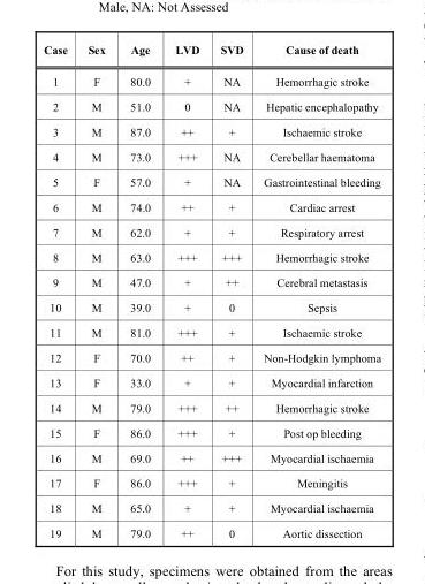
<table><thead><tr><td>Case</td><td>Sex</td><td>Age</td><td>LVD</td><td>SVD</td><td>Cause of death</td></tr></thead><tbody><tr><td>1</td><td>F</td><td>80.0</td><td>+</td><td>NA</td><td>Hemorrhagic stroke</td></tr><tr><td>2</td><td>M</td><td>51.0</td><td>0</td><td>NA</td><td>Hepatic encephalopathy</td></tr><tr><td>3</td><td>M</td><td>87.0</td><td>++</td><td>+</td><td>Ischaemic stroke</td></tr><tr><td>4</td><td>M</td><td>73.0</td><td>+++</td><td>NA</td><td>Cerebellar haematoma</td></tr><tr><td>5</td><td>F</td><td>57.0</td><td>+</td><td>NA</td><td>Gastrointestinal bleeding</td></tr><tr><td>6</td><td>M</td><td>74.0</td><td>++</td><td>+</td><td>Cardiac arrest</td></tr><tr><td>7</td><td>M</td><td>62.0</td><td>+</td><td>+</td><td>Respiratory arrest</td></tr><tr><td>8</td><td>M</td><td>63.0</td><td>+++</td><td>+++</td><td>Hemorrhagic stroke</td></tr><tr><td>9</td><td>M</td><td>47.0</td><td>+</td><td>++</td><td>Cerebral metastasis</td></tr><tr><td>10</td><td>M</td><td>39.0</td><td>+</td><td>0</td><td>Sepsis</td></tr><tr><td>11</td><td>M</td><td>81.0</td><td>+++</td><td>+</td><td>Ischaemic stroke</td></tr><tr><td>12</td><td>F</td><td>70.0</td><td>++</td><td>+</td><td>Non-Hodgkin lymphoma</td></tr><tr><td>13</td><td>F</td><td>33.0</td><td>+</td><td>+</td><td>Myocardial infarction</td></tr><tr><td>14</td><td>M</td><td>79.0</td><td>+++</td><td>++</td><td>Hemorrhagic stroke</td></tr><tr><td>15</td><td>F</td><td>86.0</td><td>+++</td><td>+</td><td>Post op bleeding</td></tr><tr><td>16</td><td>M</td><td>69.0</td><td>++</td><td>+++</td><td>Myocardial ischaemia</td></tr><tr><td>17</td><td>F</td><td>86.0</td><td>+++</td><td>+</td><td>Meningitis</td></tr><tr><td>18</td><td>M</td><td>65.0</td><td>+</td><td>+</td><td>Myocardial ischaemia</td></tr><tr><td>19</td><td>M</td><td>79.0</td><td>++</td><td>0</td><td>Aortic dissection</td></tr></tbody></table>